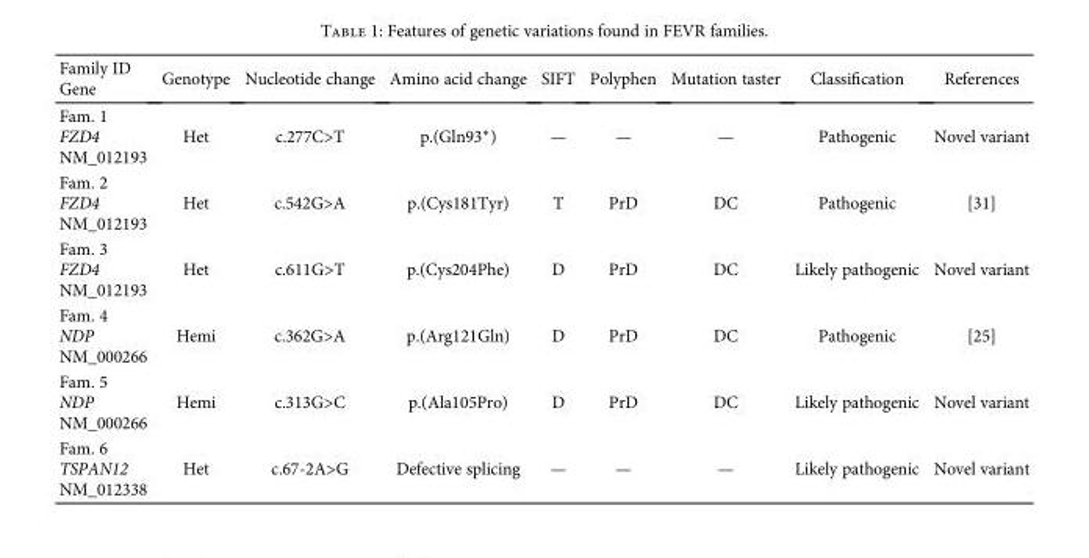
<table><thead><tr><td>Family ID Gene</td><td>Genotype</td><td>Nucleotide change</td><td>Amino acid change</td><td>SIFT</td><td>Polyphen</td><td>Mutation taster</td><td>Classification</td><td>References</td></tr></thead><tbody><tr><td>Fam. 1 FZD4 NM_012193</td><td>Het</td><td>c.277C&gt;T</td><td>p.(Gln93∗)</td><td>—</td><td>—</td><td>—</td><td>Pathogenic</td><td>Novel variant</td></tr><tr><td>Fam. 2 FZD4 NM_012193</td><td>Het</td><td>c.542G&gt;A</td><td>p.(Cys181Tyr)</td><td>T</td><td>PrD</td><td>DC</td><td>Pathogenic</td><td>[31]</td></tr><tr><td>Fam. 3 FZD4 NM_012193</td><td>Het</td><td>c.611G&gt;T</td><td>p.(Cys204Phe)</td><td>D</td><td>PrD</td><td>DC</td><td>Likely pathogenic</td><td>Novel variant</td></tr><tr><td>Fam. 4 NDP NM_000266</td><td>Hemi</td><td>c.362G&gt;A</td><td>p.(Arg121Gln)</td><td>D</td><td>PrD</td><td>DC</td><td>Pathogenic</td><td>[25]</td></tr><tr><td>Fam. 5 NDP NM_000266</td><td>Hemi</td><td>c.313G&gt;C</td><td>p.(Ala105Pro)</td><td>D</td><td>PrD</td><td>DC</td><td>Likely pathogenic</td><td>Novel variant</td></tr><tr><td>Fam. 6 TSPAN12 NM_012338</td><td>Het</td><td>c.67-2A&gt;G</td><td>Defective splicing</td><td>—</td><td>—</td><td>—</td><td>Likely pathogenic</td><td>Novel variant</td></tr></tbody></table>